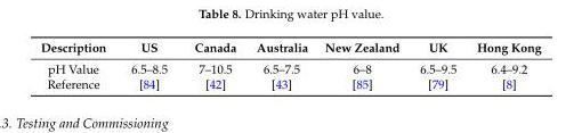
<table><thead><tr><td>Description</td><td>US</td><td>Canada</td><td>Australia</td><td>New Zealand</td><td>UK</td><td>Hong Kong</td></tr></thead><tbody><tr><td>pH Value</td><td>6.5–8.5</td><td>7–10.5</td><td>6.5–7.5</td><td>6–8</td><td>6.5–9.5</td><td>6.4–9.2</td></tr><tr><td>Reference</td><td>[84]</td><td>[42]</td><td>[43]</td><td>[85]</td><td>[79]</td><td>[8]</td></tr></tbody></table>